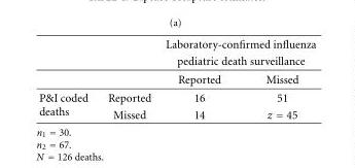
<table><thead><tr><td rowspan="3"></td><td rowspan="3"></td><td rowspan="2" colspan="2">Laboratory-confirmed influenza pediatric death surveillance</td></tr><tr></tr><tr><td>Reported</td><td>Missed</td></tr></thead><tbody><tr><td rowspan="2">P&amp;I coded deaths</td><td>Reported</td><td>16</td><td>51</td></tr><tr><td>Missed</td><td>14</td><td>z = 45</td></tr></tbody></table>